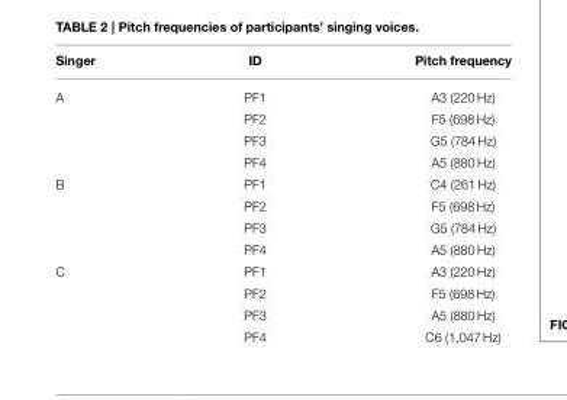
<table><thead><tr><td>Singer</td><td>ID</td><td>Pitch frequency</td></tr></thead><tbody><tr><td rowspan="4">A</td><td>PF1</td><td>A3 (220 Hz)</td></tr><tr><td>PF2</td><td>F5 (698 Hz)</td></tr><tr><td>PF3</td><td>G5 (784 Hz)</td></tr><tr><td>PF4</td><td>A5 (880 Hz)</td></tr><tr><td rowspan="4">B</td><td>PF1</td><td>C4 (261 Hz)</td></tr><tr><td>PF2</td><td>F5 (698 Hz)</td></tr><tr><td>PF3</td><td>G5 (784 Hz)</td></tr><tr><td>PF4</td><td>A5 (880 Hz)</td></tr><tr><td rowspan="4">C</td><td>PF1</td><td>A3 (220 Hz)</td></tr><tr><td>PF2</td><td>F5 (698 Hz)</td></tr><tr><td>PF3</td><td>A5 (880 Hz)</td></tr><tr><td>PF4</td><td>C6 (1,047 Hz)</td></tr></tbody></table>